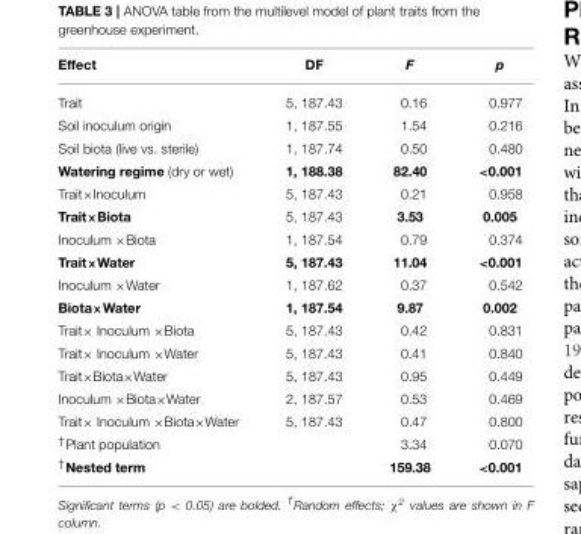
<table><thead><tr><td>Effect</td><td>DF</td><td>F</td><td>p</td></tr></thead><tbody><tr><td>Trait</td><td>5, 187.43</td><td>0.16</td><td>0.977</td></tr><tr><td>Soil inoculum origin</td><td>1, 187.55</td><td>1.54</td><td>0.216</td></tr><tr><td>Soil biota (live vs. sterile)</td><td>1, 187.74</td><td>0.50</td><td>0.480</td></tr><tr><td>Watering regime (dry or wet)</td><td>1, 188.38</td><td>82.40</td><td>&lt;0.001</td></tr><tr><td>Trait×Inoculum</td><td>5, 187.43</td><td>0.21</td><td>0.958</td></tr><tr><td>Trait×Biota</td><td>5, 187.43</td><td>3.53</td><td>0.005</td></tr><tr><td>Inoculum ×Biota</td><td>1, 187.54</td><td>0.79</td><td>0.374</td></tr><tr><td>Trait×Water</td><td>5, 187.43</td><td>11.04</td><td>&lt;0.001</td></tr><tr><td>Inoculum ×Water</td><td>1, 187.62</td><td>0.37</td><td>0.542</td></tr><tr><td>Biota×Water</td><td>1, 187.54</td><td>9.87</td><td>0.002</td></tr><tr><td>Trait× Inoculum ×Biota</td><td>5, 187.43</td><td>0.42</td><td>0.831</td></tr><tr><td>Trait× Inoculum ×Water</td><td>5, 187.43</td><td>0.41</td><td>0.840</td></tr><tr><td>Trait×Biota×Water</td><td>5, 187.43</td><td>0.95</td><td>0.449</td></tr><tr><td>Inoculum ×Biota×Water</td><td>2, 187.57</td><td>0.53</td><td>0.469</td></tr><tr><td>Trait× Inoculum ×Biota×Water</td><td>5, 187.43</td><td>0.47</td><td>0.800</td></tr><tr><td><sup>†</sup>Plant population</td><td></td><td>3.34</td><td>0.070</td></tr><tr><td><sup>†</sup>Nested term</td><td></td><td>159.38</td><td>&lt;0.001</td></tr></tbody></table>